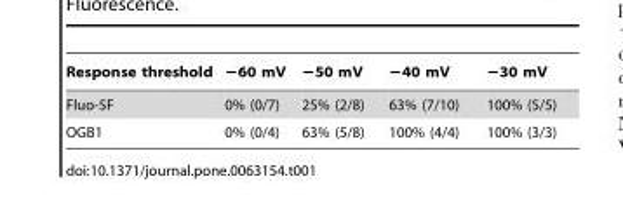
<table><thead><tr><td>Response threshold</td><td>−60 mV</td><td>−50 mV</td><td>−40 mV</td><td>−30 mV</td></tr></thead><tbody><tr><td>Fluo-5F</td><td>0% (0/7)</td><td>25% (2/8)</td><td>63% (7/10)</td><td>100% (5/5)</td></tr><tr><td>OGB1</td><td>0% (0/4)</td><td>63% (5/8)</td><td>100% (4/4)</td><td>100% (3/3)</td></tr></tbody></table>